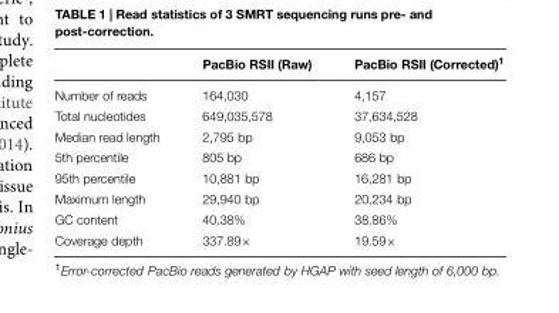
<table><thead><tr><td></td><td>PacBio RSII (Raw)</td><td>PacBio RSII (Corrected)<sup>1</sup></td></tr></thead><tbody><tr><td>Number of reads</td><td>164,030</td><td>4,157</td></tr><tr><td>Total nucleotides</td><td>649,035,578</td><td>37,634,528</td></tr><tr><td>Median read length</td><td>2,795 bp</td><td>9,053 bp</td></tr><tr><td>5th percentile</td><td>805 bp</td><td>686 bp</td></tr><tr><td>95th percentile</td><td>10,881 bp</td><td>16,281 bp</td></tr><tr><td>Maximum length</td><td>29,940 bp</td><td>20,234 bp</td></tr><tr><td>GC content</td><td>40.38%</td><td>38.86%</td></tr><tr><td>Coverage depth</td><td>337.89×</td><td>19.59×</td></tr></tbody></table>